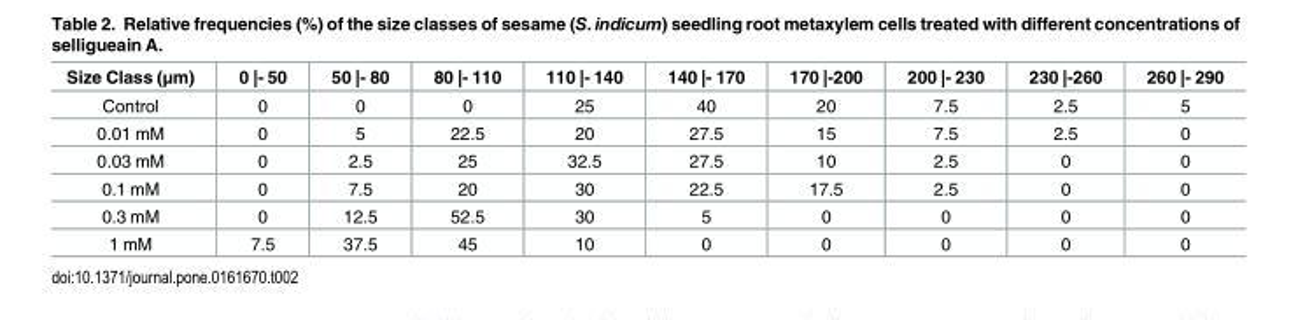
<table><thead><tr><td>Size Class (μm)</td><td>0 |- 50</td><td>50 |- 80</td><td>80 |- 110</td><td>110 |- 140</td><td>140 |- 170</td><td>170 |-200</td><td>200 |- 230</td><td>230 |-260</td><td>260 |- 290</td></tr></thead><tbody><tr><td>Control</td><td>0</td><td>0</td><td>0</td><td>25</td><td>40</td><td>20</td><td>7.5</td><td>2.5</td><td>5</td></tr><tr><td>0.01 mM</td><td>0</td><td>5</td><td>22.5</td><td>20</td><td>27.5</td><td>15</td><td>7.5</td><td>2.5</td><td>0</td></tr><tr><td>0.03 mM</td><td>0</td><td>2.5</td><td>25</td><td>32.5</td><td>27.5</td><td>10</td><td>2.5</td><td>0</td><td>0</td></tr><tr><td>0.1 mM</td><td>0</td><td>7.5</td><td>20</td><td>30</td><td>22.5</td><td>17.5</td><td>2.5</td><td>0</td><td>0</td></tr><tr><td>0.3 mM</td><td>0</td><td>12.5</td><td>52.5</td><td>30</td><td>5</td><td>0</td><td>0</td><td>0</td><td>0</td></tr><tr><td>1 mM</td><td>7.5</td><td>37.5</td><td>45</td><td>10</td><td>0</td><td>0</td><td>0</td><td>0</td><td>0</td></tr></tbody></table>